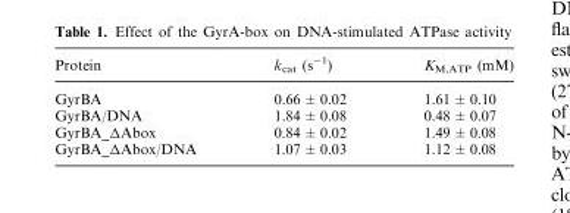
<table><thead><tr><td>Protein</td><td>k<sub>cat</sub> (s<sup>−1</sup>)</td><td>K<sub>M,ATP</sub> (mM)</td></tr></thead><tbody><tr><td>GyrBA</td><td>0.66 ± 0.02</td><td>1.61 ± 0.10</td></tr><tr><td>GyrBA/DNA</td><td>1.84 ± 0.08</td><td>0.48 ± 0.07</td></tr><tr><td>GyrBA_ΔAbox</td><td>0.84 ± 0.02</td><td>1.49 ± 0.08</td></tr><tr><td>GyrBA_ΔAbox/DNA</td><td>1.07 ± 0.03</td><td>1.12 ± 0.08</td></tr></tbody></table>